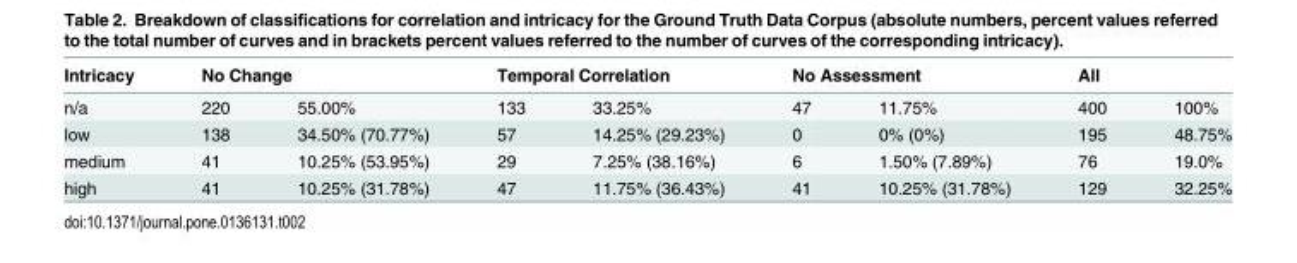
<table><thead><tr><td rowspan="2">Intricacy n/a</td><td colspan="2">No Change</td><td colspan="2">Temporal Correlation</td><td colspan="2">No Assessment</td><td colspan="2">All</td></tr><tr><td>220</td><td>55.00%</td><td>133</td><td>33.25%</td><td>47</td><td>11.75%</td><td>400</td><td>100%</td></tr></thead><tbody><tr><td>low</td><td>138</td><td>34.50% (70.77%)</td><td>57</td><td>14.25% (29.23%)</td><td>0</td><td>0% (0%)</td><td>195</td><td>48.75%</td></tr><tr><td>medium</td><td>41</td><td>10.25% (53.95%)</td><td>29</td><td>7.25% (38.16%)</td><td>6</td><td>1.50% (7.89%)</td><td>76</td><td>19.0%</td></tr><tr><td>high</td><td>41</td><td>10.25% (31.78%)</td><td>47</td><td>11.75% (36.43%)</td><td>41</td><td>10.25% (31.78%)</td><td>129</td><td>32.25%</td></tr></tbody></table>